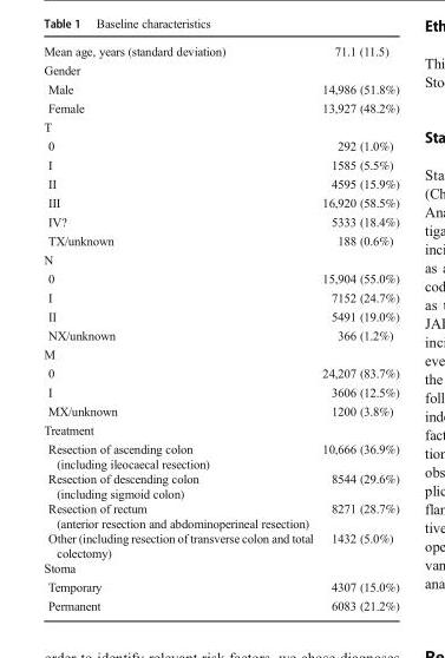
<table><tbody><tr><td>Mean age, years (standard deviation)</td><td>71.1 (11.5)</td></tr><tr><td colspan="2">Gender</td></tr><tr><td>Male</td><td>14,986 (51.8%)</td></tr><tr><td>Female</td><td>13,927 (48.2%)</td></tr><tr><td colspan="2">T</td></tr><tr><td>0</td><td>292 (1.0%)</td></tr><tr><td>I</td><td>1585 (5.5%)</td></tr><tr><td>II</td><td>4595 (15.9%)</td></tr><tr><td>III</td><td>16,920 (58.5%)</td></tr><tr><td>IV?</td><td>5333 (18.4%)</td></tr><tr><td>TX/unknown</td><td>188 (0.6%)</td></tr><tr><td colspan="2">N</td></tr><tr><td>0</td><td>15,904 (55.0%)</td></tr><tr><td>I</td><td>7152 (24.7%)</td></tr><tr><td>II</td><td>5491 (19.0%)</td></tr><tr><td>NX/unknown</td><td>366 (1.2%)</td></tr><tr><td colspan="2">M</td></tr><tr><td>0</td><td>24,207 (83.7%)</td></tr><tr><td>I</td><td>3606 (12.5%)</td></tr><tr><td>MX/unknown</td><td>1200 (3.8%)</td></tr><tr><td colspan="2">Treatment</td></tr><tr><td>Resection of ascending colon (including ileocaecal resection)</td><td>10,666 (36.9%)</td></tr><tr><td>Resection of descending colon (including sigmoid colon)</td><td>8544 (29.6%)</td></tr><tr><td>Resection of rectum (anterior resection and abdominoperineal resection)</td><td>8271 (28.7%)</td></tr><tr><td>Other (including resection of transverse colon and total colectomy)</td><td>1432 (5.0%)</td></tr><tr><td colspan="2">Stoma</td></tr><tr><td>Temporary</td><td>4307 (15.0%)</td></tr><tr><td>Permanent</td><td>6083 (21.2%)</td></tr></tbody></table>